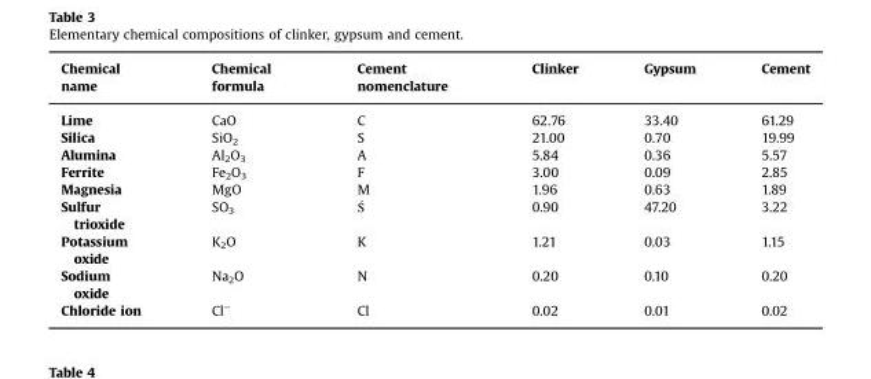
<table><thead><tr><td>Chemical name</td><td>Chemical formula</td><td>Cement nomenclature</td><td>Clinker</td><td>Gypsum</td><td>Cement</td></tr></thead><tbody><tr><td>Lime</td><td>CaO</td><td>C</td><td>62.76</td><td>33.40</td><td>61.29</td></tr><tr><td>Silica</td><td>SiO<sub>2</sub></td><td>S</td><td>21.00</td><td>0.70</td><td>19.99</td></tr><tr><td>Alumina</td><td>Al<sub>2</sub>O<sub>3</sub></td><td>A</td><td>5.84</td><td>0.36</td><td>5.57</td></tr><tr><td>Ferrite</td><td>Fe<sub>2</sub>O<sub>3</sub></td><td>F</td><td>3.00</td><td>0.09</td><td>2.85</td></tr><tr><td>Magnesia</td><td>MgO</td><td>M</td><td>1.96</td><td>0.63</td><td>1.89</td></tr><tr><td>Sulfur trioxide</td><td>SO<sub>3</sub></td><td>Ś</td><td>0.90</td><td>47.20</td><td>3.22</td></tr><tr><td>Potassium oxide</td><td>K<sub>2</sub>O</td><td>K</td><td>1.21</td><td>0.03</td><td>1.15</td></tr><tr><td>Sodium oxide</td><td>Na<sub>2</sub>O</td><td>N</td><td>0.20</td><td>0.10</td><td>0.20</td></tr><tr><td>Chloride ion</td><td>Cl<sup>−</sup></td><td>Cl</td><td>0.02</td><td>0.01</td><td>0.02</td></tr></tbody></table>